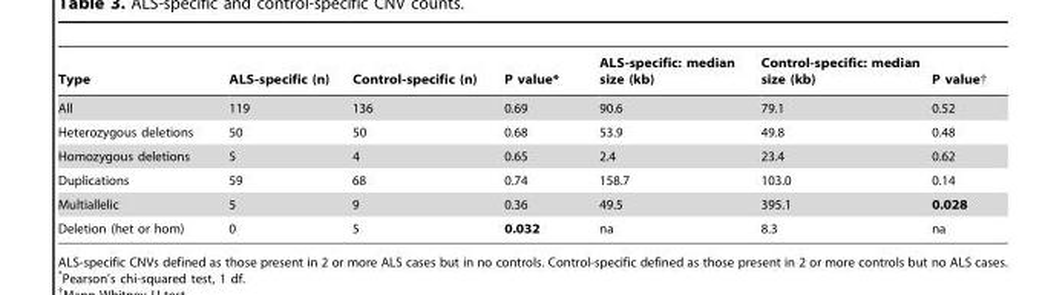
<table><thead><tr><td>Type</td><td>ALS-specific (n)</td><td>Control-specific (n)</td><td>P value*</td><td>ALS-specific: median size (kb)</td><td>Control-specific: median size (kb)</td><td>P value†</td></tr></thead><tbody><tr><td>All</td><td>119</td><td>136</td><td>0.69</td><td>90.6</td><td>79.1</td><td>0.52</td></tr><tr><td>Heterozygous deletions</td><td>50</td><td>50</td><td>0.68</td><td>53.9</td><td>49.8</td><td>0.48</td></tr><tr><td>Homozygous deletions</td><td>5</td><td>4</td><td>0.65</td><td>2.4</td><td>23.4</td><td>0.62</td></tr><tr><td>Duplications</td><td>59</td><td>68</td><td>0.74</td><td>158.7</td><td>103.0</td><td>0.14</td></tr><tr><td>Multiallelic</td><td>5</td><td>9</td><td>0.36</td><td>49.5</td><td>395.1</td><td>0.028</td></tr><tr><td>Deletion (het or hom)</td><td>0</td><td>5</td><td>0.032</td><td>na</td><td>8.3</td><td>na</td></tr></tbody></table>